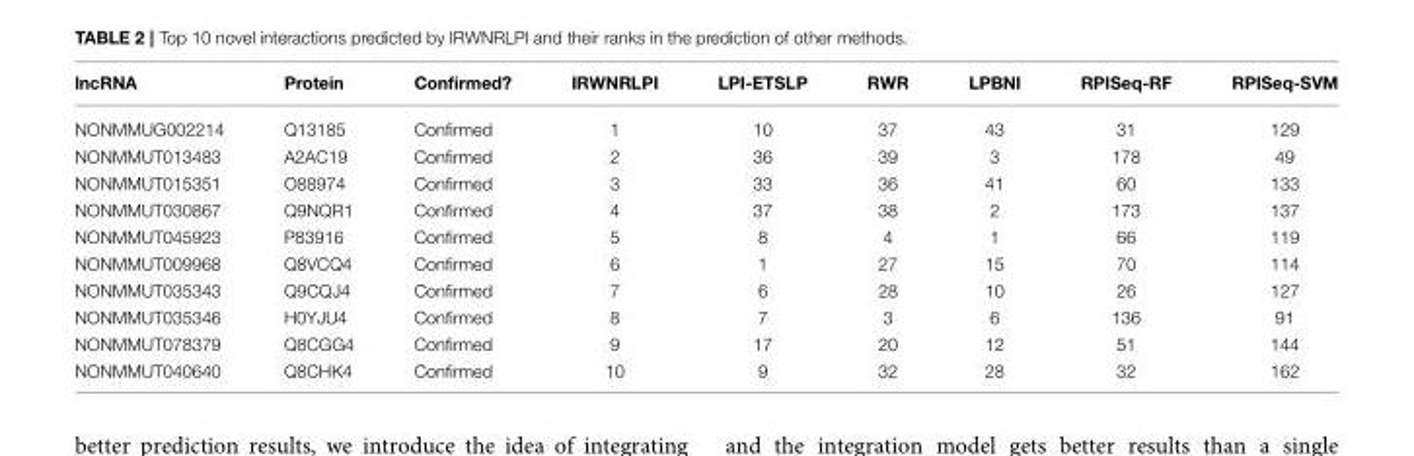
<table><thead><tr><td>lncRNA</td><td>Protein</td><td>Confirmed?</td><td>IRWNRLPI</td><td>LPI-ETSLP</td><td>RWR</td><td>LPBNI</td><td>RPISeq-RF</td><td>RPISeq-SVM</td></tr></thead><tbody><tr><td>NONMMUG002214</td><td>Q13185</td><td>Confirmed</td><td>1</td><td>10</td><td>37</td><td>43</td><td>31</td><td>129</td></tr><tr><td>NONMMUT013483</td><td>A2AC19</td><td>Confirmed</td><td>2</td><td>36</td><td>39</td><td>3</td><td>178</td><td>49</td></tr><tr><td>NONMMUT015351</td><td>O88974</td><td>Confirmed</td><td>3</td><td>33</td><td>36</td><td>41</td><td>60</td><td>133</td></tr><tr><td>NONMMUT030867</td><td>Q9NQR1</td><td>Confirmed</td><td>4</td><td>37</td><td>38</td><td>2</td><td>173</td><td>137</td></tr><tr><td>NONMMUT045923</td><td>P83916</td><td>Confirmed</td><td>5</td><td>8</td><td>4</td><td>1</td><td>66</td><td>119</td></tr><tr><td>NONMMUT009968</td><td>Q8VCQ4</td><td>Confirmed</td><td>6</td><td>1</td><td>27</td><td>15</td><td>70</td><td>114</td></tr><tr><td>NONMMUT035343</td><td>Q9CQJ4</td><td>Confirmed</td><td>7</td><td>6</td><td>28</td><td>10</td><td>26</td><td>127</td></tr><tr><td>NONMMUT035346</td><td>H0YJU4</td><td>Confirmed</td><td>8</td><td>7</td><td>3</td><td>6</td><td>136</td><td>91</td></tr><tr><td>NONMMUT078379</td><td>Q8CGG4</td><td>Confirmed</td><td>9</td><td>17</td><td>20</td><td>12</td><td>51</td><td>144</td></tr><tr><td>NONMMUT040640</td><td>Q8CHK4</td><td>Confirmed</td><td>10</td><td>9</td><td>32</td><td>28</td><td>32</td><td>162</td></tr></tbody></table>